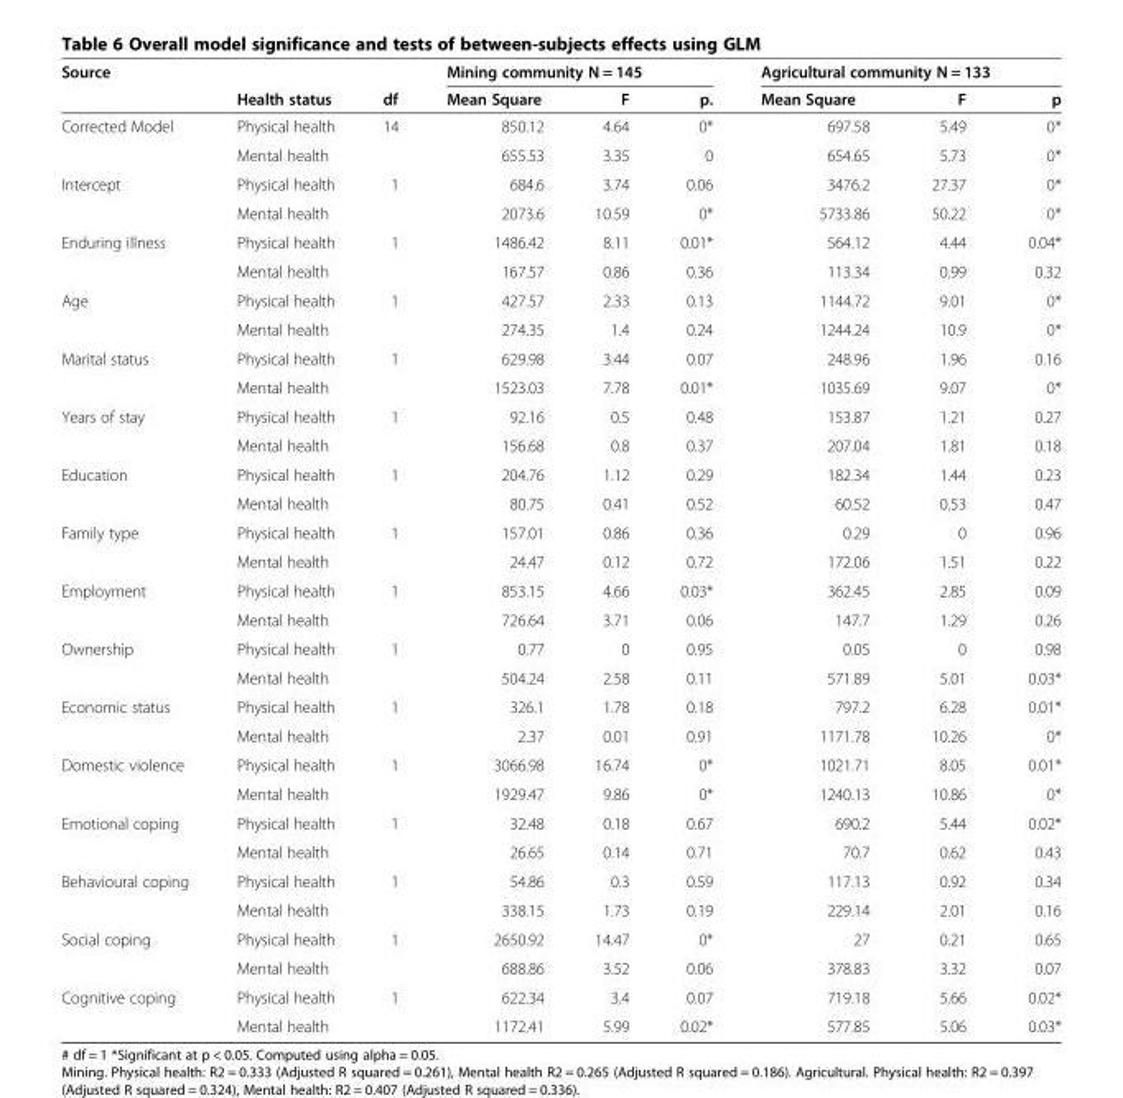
<table><thead><tr><td rowspan="2">Source</td><td rowspan="2">Health status</td><td rowspan="2">df</td><td colspan="3">Mining community N = 145</td><td colspan="3">Agricultural community N = 133</td></tr><tr><td>Mean Square</td><td>F</td><td>p.</td><td>Mean Square</td><td>F</td><td>p</td></tr></thead><tbody><tr><td rowspan="2">Corrected Model</td><td>Physical health</td><td>14</td><td>850.12</td><td>4.64</td><td>0*</td><td>697.58</td><td>5.49</td><td>0*</td></tr><tr><td>Mental health</td><td></td><td>655.53</td><td>3.35</td><td>0</td><td>654.65</td><td>5.73</td><td>0*</td></tr><tr><td rowspan="2">Intercept</td><td>Physical health</td><td>1</td><td>684.6</td><td>3.74</td><td>0.06</td><td>3476.2</td><td>27.37</td><td>0*</td></tr><tr><td>Mental health</td><td></td><td>2073.6</td><td>10.59</td><td>0*</td><td>5733.86</td><td>50.22</td><td>0*</td></tr><tr><td rowspan="2">Enduring illness</td><td>Physical health</td><td>1</td><td>1486.42</td><td>8.11</td><td>0.01*</td><td>564.12</td><td>4.44</td><td>0.04*</td></tr><tr><td>Mental health</td><td></td><td>167.57</td><td>0.86</td><td>0.36</td><td>113.34</td><td>0.99</td><td>0.32</td></tr><tr><td rowspan="2">Age</td><td>Physical health</td><td>1</td><td>427.57</td><td>2.33</td><td>0.13</td><td>1144.72</td><td>9.01</td><td>0*</td></tr><tr><td>Mental health</td><td></td><td>274.35</td><td>1.4</td><td>0.24</td><td>1244.24</td><td>10.9</td><td>0*</td></tr><tr><td rowspan="2">Marital status</td><td>Physical health</td><td>1</td><td>629.98</td><td>3.44</td><td>0.07</td><td>248.96</td><td>1.96</td><td>0.16</td></tr><tr><td>Mental health</td><td></td><td>1523.03</td><td>7.78</td><td>0.01*</td><td>1035.69</td><td>9.07</td><td>0*</td></tr><tr><td rowspan="2">Years of stay</td><td>Physical health</td><td>1</td><td>92.16</td><td>0.5</td><td>0.48</td><td>153.87</td><td>1.21</td><td>0.27</td></tr><tr><td>Mental health</td><td></td><td>156.68</td><td>0.8</td><td>0.37</td><td>207.04</td><td>1.81</td><td>0.18</td></tr><tr><td rowspan="2">Education</td><td>Physical health</td><td>1</td><td>204.76</td><td>1.12</td><td>0.29</td><td>182.34</td><td>1.44</td><td>0.23</td></tr><tr><td>Mental health</td><td></td><td>80.75</td><td>0.41</td><td>0.52</td><td>60.52</td><td>0.53</td><td>0.47</td></tr><tr><td rowspan="2">Family type</td><td>Physical health</td><td>1</td><td>157.01</td><td>0.86</td><td>0.36</td><td>0.29</td><td>0</td><td>0.96</td></tr><tr><td>Mental health</td><td></td><td>24.47</td><td>0.12</td><td>0.72</td><td>172.06</td><td>1.51</td><td>0.22</td></tr><tr><td rowspan="2">Employment</td><td>Physical health</td><td>1</td><td>853.15</td><td>4.66</td><td>0.03*</td><td>362.45</td><td>2.85</td><td>0.09</td></tr><tr><td>Mental health</td><td></td><td>726.64</td><td>3.71</td><td>0.06</td><td>147.7</td><td>1.29</td><td>0.26</td></tr><tr><td rowspan="2">Ownership</td><td>Physical health</td><td>1</td><td>0.77</td><td>0</td><td>0.95</td><td>0.05</td><td>0</td><td>0.98</td></tr><tr><td>Mental health</td><td></td><td>504.24</td><td>2.58</td><td>0.11</td><td>571.89</td><td>5.01</td><td>0.03*</td></tr><tr><td rowspan="2">Economic status</td><td>Physical health</td><td>1</td><td>326.1</td><td>1.78</td><td>0.18</td><td>797.2</td><td>6.28</td><td>0.01*</td></tr><tr><td>Mental health</td><td></td><td>2.37</td><td>0.01</td><td>0.91</td><td>1171.78</td><td>10.26</td><td>0*</td></tr><tr><td rowspan="2">Domestic violence</td><td>Physical health</td><td>1</td><td>3066.98</td><td>16.74</td><td>0*</td><td>1021.71</td><td>8.05</td><td>0.01*</td></tr><tr><td>Mental health</td><td></td><td>1929.47</td><td>9.86</td><td>0*</td><td>1240.13</td><td>10.86</td><td>0*</td></tr><tr><td rowspan="2">Emotional coping</td><td>Physical health</td><td>1</td><td>32.48</td><td>0.18</td><td>0.67</td><td>690.2</td><td>5.44</td><td>0.02*</td></tr><tr><td>Mental health</td><td></td><td>26.65</td><td>0.14</td><td>0.71</td><td>70.7</td><td>0.62</td><td>0.43</td></tr><tr><td rowspan="2">Behavioural coping</td><td>Physical health</td><td>1</td><td>54.86</td><td>0.3</td><td>0.59</td><td>117.13</td><td>0.92</td><td>0.34</td></tr><tr><td>Mental health</td><td></td><td>338.15</td><td>1.73</td><td>0.19</td><td>229.14</td><td>2.01</td><td>0.16</td></tr><tr><td rowspan="2">Social coping</td><td>Physical health</td><td>1</td><td>2650.92</td><td>14.47</td><td>0*</td><td>27</td><td>0.21</td><td>0.65</td></tr><tr><td>Mental health</td><td></td><td>688.86</td><td>3.52</td><td>0.06</td><td>378.83</td><td>3.32</td><td>0.07</td></tr><tr><td rowspan="2">Cognitive coping</td><td>Physical health</td><td>1</td><td>622.34</td><td>3.4</td><td>0.07</td><td>719.18</td><td>5.66</td><td>0.02*</td></tr><tr><td>Mental health</td><td></td><td>1172.41</td><td>5.99</td><td>0.02*</td><td>577.85</td><td>5.06</td><td>0.03*</td></tr></tbody></table>